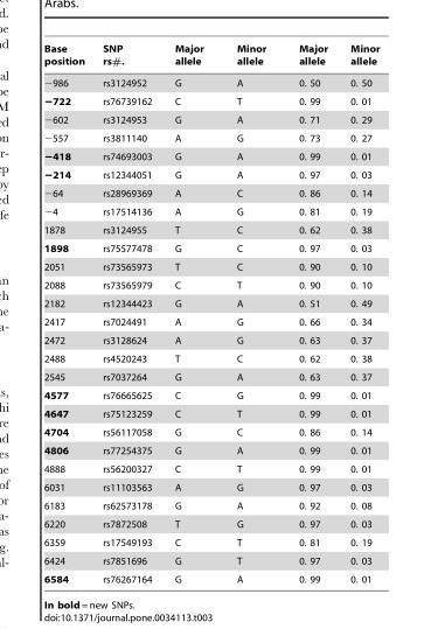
<table><thead><tr><td>Base position</td><td>SNP rs#.</td><td>Major allele</td><td>Minor allele</td><td>Major allele</td><td>Minor allele</td></tr></thead><tbody><tr><td>−986</td><td>rs3124952</td><td>G</td><td>A</td><td>0. 50</td><td>0. 50</td></tr><tr><td>−722</td><td>rs76739162</td><td>C</td><td>T</td><td>0. 99</td><td>0. 01</td></tr><tr><td>−602</td><td>rs3124953</td><td>G</td><td>A</td><td>0. 71</td><td>0. 29</td></tr><tr><td>−557</td><td>rs3811140</td><td>A</td><td>G</td><td>0. 73</td><td>0. 27</td></tr><tr><td>−418</td><td>rs74693003</td><td>G</td><td>A</td><td>0. 99</td><td>0. 01</td></tr><tr><td>−214</td><td>rs12344051</td><td>G</td><td>A</td><td>0. 97</td><td>0. 03</td></tr><tr><td>−64</td><td>rs28969369</td><td>A</td><td>C</td><td>0. 86</td><td>0. 14</td></tr><tr><td>−4</td><td>rs17514136</td><td>A</td><td>G</td><td>0. 81</td><td>0. 19</td></tr><tr><td>1878</td><td>rs3124955</td><td>T</td><td>C</td><td>0. 62</td><td>0. 38</td></tr><tr><td>1898</td><td>rs75577478</td><td>G</td><td>C</td><td>0. 97</td><td>0. 03</td></tr><tr><td>2051</td><td>rs73565973</td><td>T</td><td>C</td><td>0. 90</td><td>0. 10</td></tr><tr><td>2088</td><td>rs73565979</td><td>C</td><td>T</td><td>0. 90</td><td>0. 10</td></tr><tr><td>2182</td><td>rs12344423</td><td>G</td><td>A</td><td>0. 51</td><td>0. 49</td></tr><tr><td>2417</td><td>rs7024491</td><td>A</td><td>G</td><td>0. 66</td><td>0. 34</td></tr><tr><td>2472</td><td>rs3128624</td><td>A</td><td>G</td><td>0. 63</td><td>0. 37</td></tr><tr><td>2488</td><td>rs4520243</td><td>T</td><td>C</td><td>0. 62</td><td>0. 38</td></tr><tr><td>2545</td><td>rs7037264</td><td>G</td><td>A</td><td>0. 63</td><td>0. 37</td></tr><tr><td>4577</td><td>rs76665625</td><td>C</td><td>G</td><td>0. 99</td><td>0. 01</td></tr><tr><td>4647</td><td>rs75123259</td><td>C</td><td>T</td><td>0. 99</td><td>0. 01</td></tr><tr><td>4704</td><td>rs56117058</td><td>G</td><td>C</td><td>0. 86</td><td>0. 14</td></tr><tr><td>4806</td><td>rs77254375</td><td>G</td><td>A</td><td>0. 99</td><td>0. 01</td></tr><tr><td>4888</td><td>rs56200327</td><td>C</td><td>T</td><td>0. 99</td><td>0. 01</td></tr><tr><td>6031</td><td>rs11103563</td><td>A</td><td>G</td><td>0. 97</td><td>0. 03</td></tr><tr><td>6183</td><td>rs62573178</td><td>G</td><td>A</td><td>0. 92</td><td>0. 08</td></tr><tr><td>6220</td><td>rs7872508</td><td>T</td><td>G</td><td>0. 97</td><td>0. 03</td></tr><tr><td>6359</td><td>rs17549193</td><td>C</td><td>T</td><td>0. 81</td><td>0. 19</td></tr><tr><td>6424</td><td>rs7851696</td><td>G</td><td>T</td><td>0. 97</td><td>0. 03</td></tr><tr><td>6584</td><td>rs76267164</td><td>G</td><td>A</td><td>0. 99</td><td>0. 01</td></tr></tbody></table>